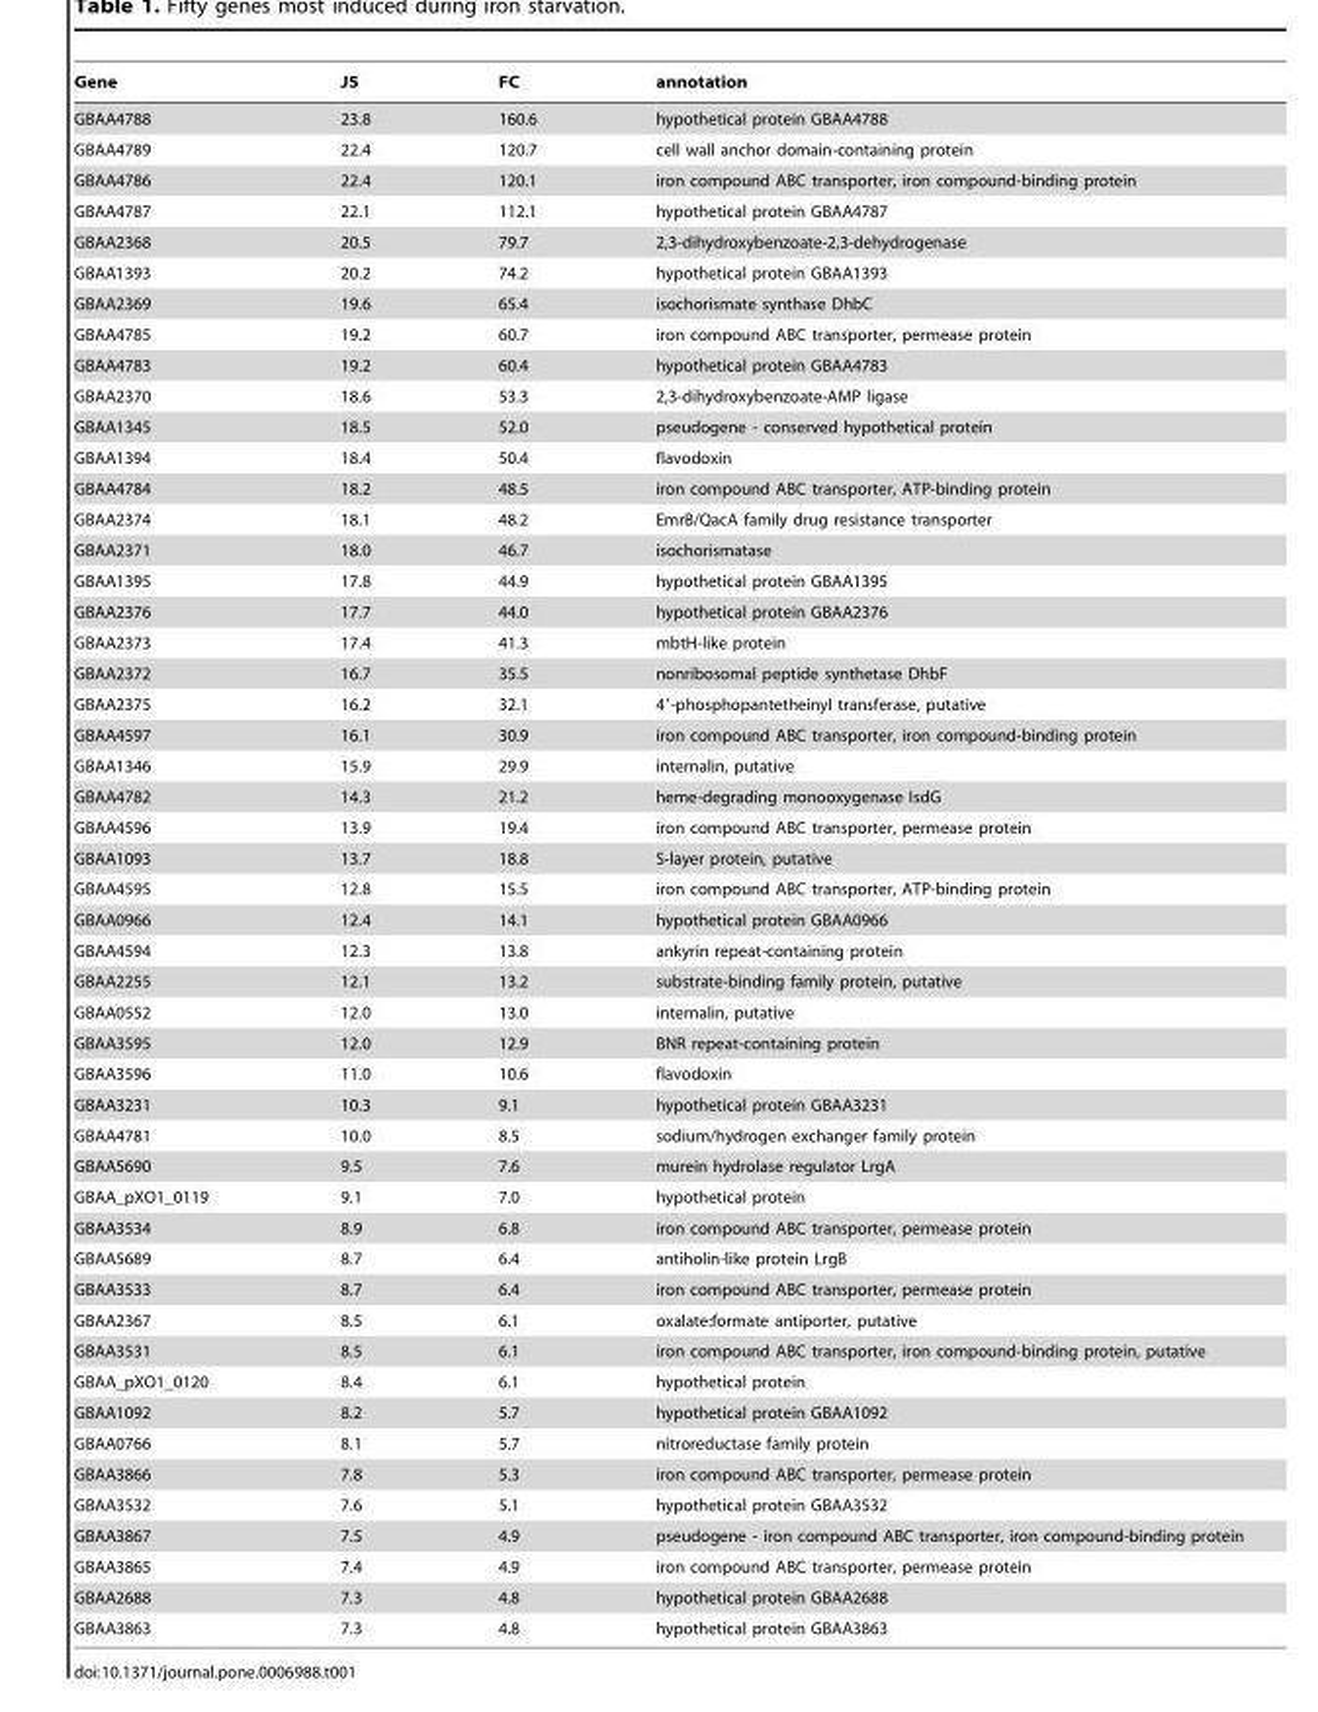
<table><thead><tr><td>Gene</td><td>J5</td><td>FC</td><td>annotation</td></tr></thead><tbody><tr><td>GBAA4788</td><td>23.8</td><td>160.6</td><td>hypothetical protein GBAA4788</td></tr><tr><td>GBAA4789</td><td>22.4</td><td>120.7</td><td>cell wall anchor domain-containing protein</td></tr><tr><td>GBAA4786</td><td>22.4</td><td>120.1</td><td>iron compound ABC transporter, iron compound-binding protein</td></tr><tr><td>GBAA4787</td><td>22.1</td><td>112.1</td><td>hypothetical protein GBAA4787</td></tr><tr><td>GBAA2368</td><td>20.5</td><td>79.7</td><td>2,3-dihydroxybenzoate-2,3-dehydrogenase</td></tr><tr><td>GBAA1393</td><td>20.2</td><td>74.2</td><td>hypothetical protein GBAA1393</td></tr><tr><td>GBAA2369</td><td>19.6</td><td>65.4</td><td>isochorismate synthase DhbC</td></tr><tr><td>GBAA4785</td><td>19.2</td><td>60.7</td><td>iron compound ABC transporter, permease protein</td></tr><tr><td>GBAA4783</td><td>19.2</td><td>60.4</td><td>hypothetical protein GBAA4783</td></tr><tr><td>GBAA2370</td><td>18.6</td><td>53.3</td><td>2,3-dihydroxybenzoate-AMP ligase</td></tr><tr><td>GBAA1345</td><td>18.5</td><td>52.0</td><td>pseudogene - conserved hypothetical protein</td></tr><tr><td>GBAA1394</td><td>18.4</td><td>50.4</td><td>flavodoxin</td></tr><tr><td>GBAA4784</td><td>18.2</td><td>48.5</td><td>iron compound ABC transporter, ATP-binding protein</td></tr><tr><td>GBAA2374</td><td>18.1</td><td>48.2</td><td>EmrB/QacA family drug resistance transporter</td></tr><tr><td>GBAA2371</td><td>18.0</td><td>46.7</td><td>isochorismatase</td></tr><tr><td>GBAA1395</td><td>17.8</td><td>44.9</td><td>hypothetical protein GBAA1395</td></tr><tr><td>GBAA2376</td><td>17.7</td><td>44.0</td><td>hypothetical protein GBAA2376</td></tr><tr><td>GBAA2373</td><td>17.4</td><td>41.3</td><td>mbtH-like protein</td></tr><tr><td>GBAA2372</td><td>16.7</td><td>35.5</td><td>nonribosomal peptide synthetase DhbF</td></tr><tr><td>GBAA2375</td><td>16.2</td><td>32.1</td><td>4′-phosphopantetheinyl transferase, putative</td></tr><tr><td>GBAA4597</td><td>16.1</td><td>30.9</td><td>iron compound ABC transporter, iron compound-binding protein</td></tr><tr><td>GBAA1346</td><td>15.9</td><td>29.9</td><td>internalin, putative</td></tr><tr><td>GBAA4782</td><td>14.3</td><td>21.2</td><td>heme-degrading monooxygenase IsdG</td></tr><tr><td>GBAA4596</td><td>13.9</td><td>19.4</td><td>iron compound ABC transporter, permease protein</td></tr><tr><td>GBAA1093</td><td>13.7</td><td>18.8</td><td>S-layer protein, putative</td></tr><tr><td>GBAA4595</td><td>12.8</td><td>15.5</td><td>iron compound ABC transporter, ATP-binding protein</td></tr><tr><td>GBAA0966</td><td>12.4</td><td>14.1</td><td>hypothetical protein GBAA0966</td></tr><tr><td>GBAA4594</td><td>12.3</td><td>13.8</td><td>ankyrin repeat-containing protein</td></tr><tr><td>GBAA2255</td><td>12.1</td><td>13.2</td><td>substrate-binding family protein, putative</td></tr><tr><td>GBAA0552</td><td>12.0</td><td>13.0</td><td>internalin, putative</td></tr><tr><td>GBAA3595</td><td>12.0</td><td>12.9</td><td>BNR repeat-containing protein</td></tr><tr><td>GBAA3596</td><td>11.0</td><td>10.6</td><td>flavodoxin</td></tr><tr><td>GBAA3231</td><td>10.3</td><td>9.1</td><td>hypothetical protein GBAA3231</td></tr><tr><td>GBAA4781</td><td>10.0</td><td>8.5</td><td>sodium/hydrogen exchanger family protein</td></tr><tr><td>GBAA5690</td><td>9.5</td><td>7.6</td><td>murein hydrolase regulator LrgA</td></tr><tr><td>GBAA_pXO1_0119</td><td>9.1</td><td>7.0</td><td>hypothetical protein</td></tr><tr><td>GBAA3534</td><td>8.9</td><td>6.8</td><td>iron compound ABC transporter, permease protein</td></tr><tr><td>GBAA5689</td><td>8.7</td><td>6.4</td><td>antiholin-like protein LrgB</td></tr><tr><td>GBAA3533</td><td>8.7</td><td>6.4</td><td>iron compound ABC transporter, permease protein</td></tr><tr><td>GBAA2367</td><td>8.5</td><td>6.1</td><td>oxalate:formate antiporter, putative</td></tr><tr><td>GBAA3531</td><td>8.5</td><td>6.1</td><td>iron compound ABC transporter, iron compound-binding protein, putative</td></tr><tr><td>GBAA_pXO1_0120</td><td>8.4</td><td>6.1</td><td>hypothetical protein</td></tr><tr><td>GBAA1092</td><td>8.2</td><td>5.7</td><td>hypothetical protein GBAA1092</td></tr><tr><td>GBAA0766</td><td>8.1</td><td>5.7</td><td>nitroreductase family protein</td></tr><tr><td>GBAA3866</td><td>7.8</td><td>5.3</td><td>iron compound ABC transporter, permease protein</td></tr><tr><td>GBAA3532</td><td>7.6</td><td>5.1</td><td>hypothetical protein GBAA3532</td></tr><tr><td>GBAA3867</td><td>7.5</td><td>4.9</td><td>pseudogene - iron compound ABC transporter, iron compound-binding protein</td></tr><tr><td>GBAA3865</td><td>7.4</td><td>4.9</td><td>iron compound ABC transporter, permease protein</td></tr><tr><td>GBAA2688</td><td>7.3</td><td>4.8</td><td>hypothetical protein GBAA2688</td></tr><tr><td>GBAA3863</td><td>7.3</td><td>4.8</td><td>hypothetical protein GBAA3863</td></tr></tbody></table>